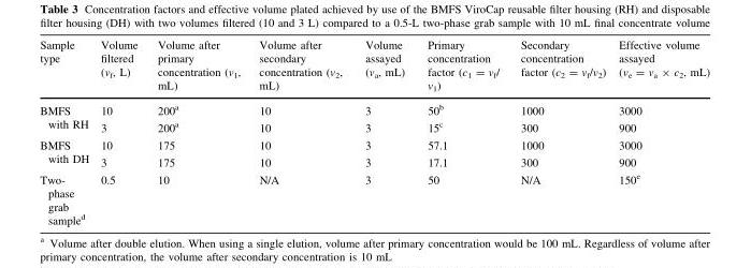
<table><thead><tr><td>Sample type</td><td>Volume filtered (v<sub>f</sub>, L)</td><td>Volume after primary concentration (v<sub>1</sub>, mL)</td><td>Volume after secondary concentration (v<sub>2</sub>, mL)</td><td>Volume assayed (v<sub>a</sub>, mL)</td><td>Primary concentration factor (c<sub>1</sub> = v<sub>f</sub>/ v<sub>1</sub>)</td><td>Secondary concentration factor (c<sub>2</sub> = v<sub>f</sub>/v<sub>2</sub>)</td><td>Effective volume assayed (v<sub>e</sub> = v<sub>a</sub> × c<sub>2</sub>, mL)</td></tr></thead><tbody><tr><td rowspan="2">BMFS with RH</td><td>10</td><td>200<sup>a</sup></td><td>10</td><td>3</td><td>50<sup>b</sup></td><td>1000</td><td>3000</td></tr><tr><td>3</td><td>200<sup>a</sup></td><td>10</td><td>3</td><td>15<sup>c</sup></td><td>300</td><td>900</td></tr><tr><td rowspan="2">BMFS with DH</td><td>10</td><td>175</td><td>10</td><td>3</td><td>57.1</td><td>1000</td><td>3000</td></tr><tr><td>3</td><td>175</td><td>10</td><td>3</td><td>17.1</td><td>300</td><td>900</td></tr><tr><td>Two- phase grab sample<sup>d</sup></td><td>0.5</td><td>10</td><td>N/A</td><td>3</td><td>50</td><td>N/A</td><td>150<sup>e</sup></td></tr></tbody></table>